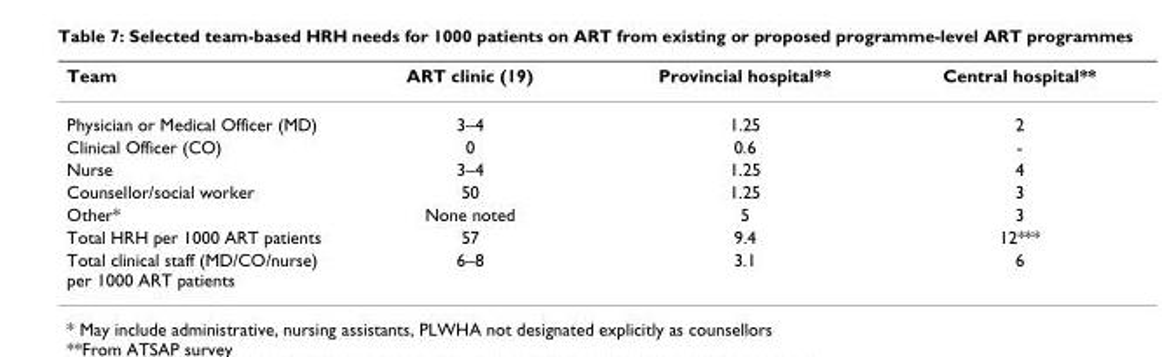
<table><thead><tr><td>Team</td><td>ART clinic (19)</td><td>Provincial hospital**</td><td>Central hospital**</td></tr></thead><tbody><tr><td>Physician or Medical Officer (MD)</td><td>3–4</td><td>1.25</td><td>2</td></tr><tr><td>Clinical Officer (CO)</td><td>0</td><td>0.6</td><td>-</td></tr><tr><td>Nurse</td><td>3–4</td><td>1.25</td><td>4</td></tr><tr><td>Counsellor/social worker</td><td>50</td><td>1.25</td><td>3</td></tr><tr><td>Other*</td><td>None noted</td><td>5</td><td>3</td></tr><tr><td>Total HRH per 1000 ART patients</td><td>57</td><td>9.4</td><td>12***</td></tr><tr><td>Total clinical staff (MD/CO/nurse) per 1000 ART patients</td><td>6–8</td><td>3.1</td><td>6</td></tr></tbody></table>